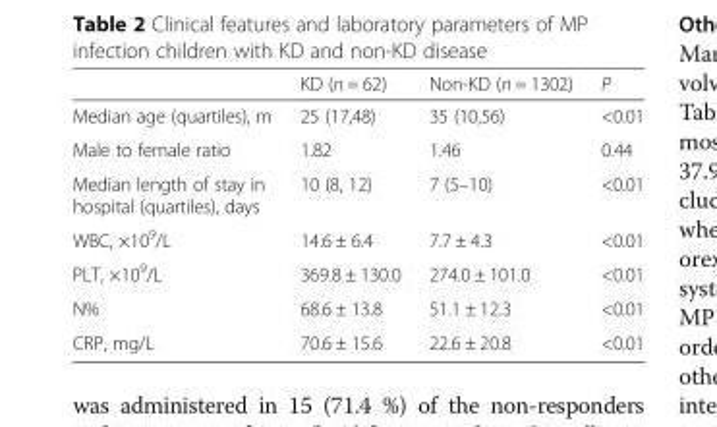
<table><thead><tr><td></td><td>KD (n = 62)</td><td>Non-KD (n = 1302)</td><td>P</td></tr></thead><tbody><tr><td>Median age (quartiles), m</td><td>25 (17,48)</td><td>35 (10,56)</td><td>&lt;0.01</td></tr><tr><td>Male to female ratio</td><td>1.82</td><td>1.46</td><td>0.44</td></tr><tr><td>Median length of stay in hospital (quartiles), days</td><td>10 (8, 12)</td><td>7 (5–10)</td><td>&lt;0.01</td></tr><tr><td>WBC, ×10<sup>9</sup>/L</td><td>14.6 ± 6.4</td><td>7.7 ± 4.3</td><td>&lt;0.01</td></tr><tr><td>PLT, ×10<sup>9</sup>/L</td><td>369.8 ± 130.0</td><td>274.0 ± 101.0</td><td>&lt;0.01</td></tr><tr><td>N%</td><td>68.6 ± 13.8</td><td>51.1 ± 12.3</td><td>&lt;0.01</td></tr><tr><td>CRP, mg/L</td><td>70.6 ± 15.6</td><td>22.6 ± 20.8</td><td>&lt;0.01</td></tr></tbody></table>